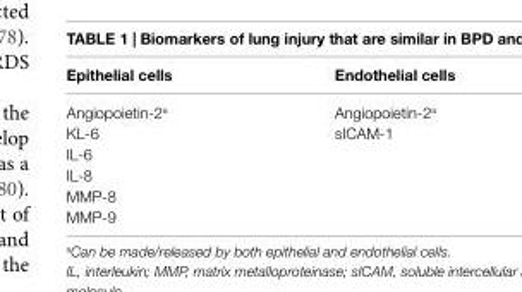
<table><thead><tr><td>epithelial cells</td><td>endothelial cells</td></tr></thead><tbody><tr><td>Angiopoietin-2<sup>a</sup></td><td>Angiopoietin-2<sup>a</sup></td></tr><tr><td>KL-6</td><td>sICAM-1</td></tr><tr><td colspan="2">IL-6</td></tr><tr><td colspan="2">IL-8</td></tr><tr><td colspan="2">MMP-8</td></tr><tr><td>MMP-9</td><td></td></tr></tbody></table>